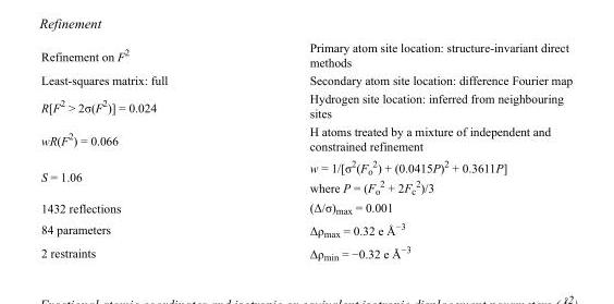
<table><tbody><tr><td>Refinement on F<sup>2</sup></td><td>Primary atom site location: structure-invariant direct methods</td></tr><tr><td>Least-squares matrix: full</td><td>Secondary atom site location: difference Fourier map</td></tr><tr><td>R[F<sup>2</sup> &gt; 2σ(F<sup>2</sup>)] = 0.024</td><td>Hydrogen site location: inferred from neighbouring sites</td></tr><tr><td>wR(F<sup>2</sup>) = 0.066</td><td>H atoms treated by a mixture of independent and constrained refinement</td></tr><tr><td>S = 1.06</td><td>w = 1/[σ<sup>2</sup>(F<sub>o</sub> <sup>2</sup>) + (0.0415P)<sup>2</sup> + 0.3611P] where P = (F<sub>o</sub> <sup>2</sup> + 2F<sub>c</sub> <sup>2</sup>)/3</td></tr><tr><td>1432 reflections</td><td>(Δ/σ)<sub>max</sub> = 0.001</td></tr><tr><td>84 parameters</td><td>Δρ<sub>max</sub> = 0.32 e Å<sup>−3</sup></td></tr><tr><td>2 restraints</td><td>Δρ<sub>min</sub> = −0.32 e Å<sup>−3</sup></td></tr></tbody></table>